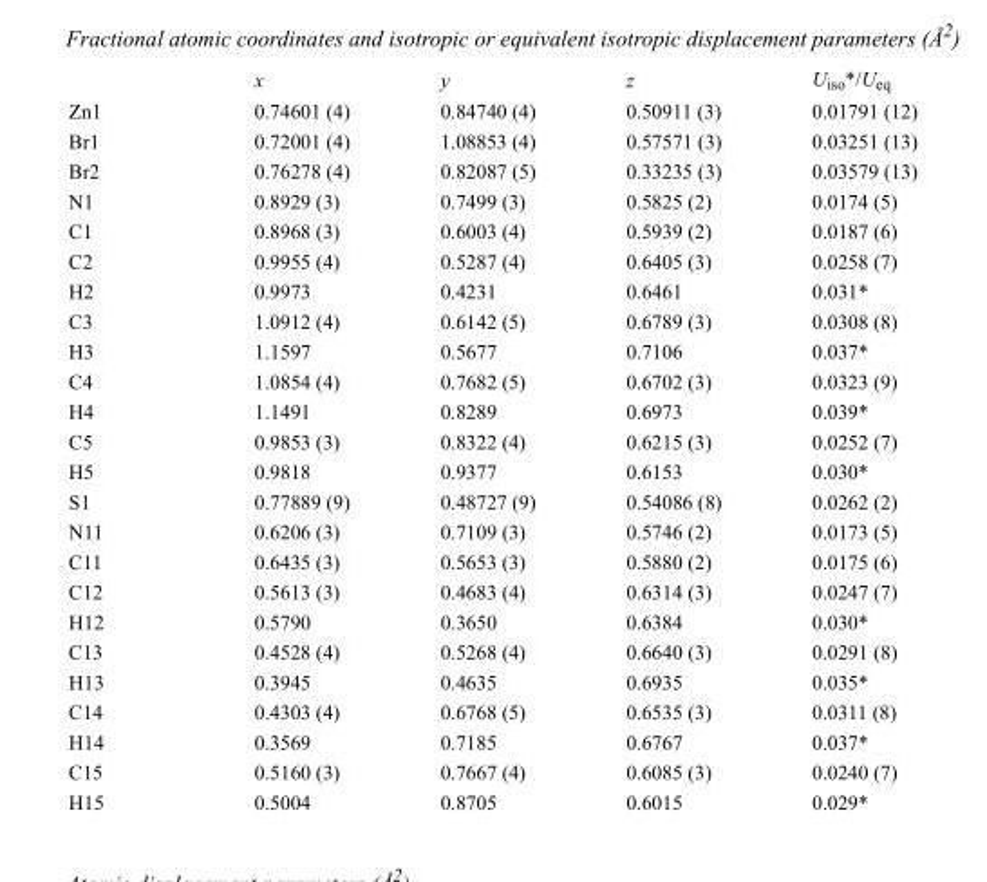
<table><thead><tr><td></td><td>x</td><td>y</td><td>z</td><td>U<sub>iso</sub>*/U<sub>eq</sub></td></tr></thead><tbody><tr><td>Zn1</td><td>0.74601 (4)</td><td>0.84740 (4)</td><td>0.50911 (3)</td><td>0.01791 (12)</td></tr><tr><td>Br1</td><td>0.72001 (4)</td><td>1.08853 (4)</td><td>0.57571 (3)</td><td>0.03251 (13)</td></tr><tr><td>Br2</td><td>0.76278 (4)</td><td>0.82087 (5)</td><td>0.33235 (3)</td><td>0.03579 (13)</td></tr><tr><td>N1</td><td>0.8929 (3)</td><td>0.7499 (3)</td><td>0.5825 (2)</td><td>0.0174 (5)</td></tr><tr><td>C1</td><td>0.8968 (3)</td><td>0.6003 (4)</td><td>0.5939 (2)</td><td>0.0187 (6)</td></tr><tr><td>C2</td><td>0.9955 (4)</td><td>0.5287 (4)</td><td>0.6405 (3)</td><td>0.0258 (7)</td></tr><tr><td>H2</td><td>0.9973</td><td>0.4231</td><td>0.6461</td><td>0.031*</td></tr><tr><td>C3</td><td>1.0912 (4)</td><td>0.6142 (5)</td><td>0.6789 (3)</td><td>0.0308 (8)</td></tr><tr><td>H3</td><td>1.1597</td><td>0.5677</td><td>0.7106</td><td>0.037*</td></tr><tr><td>C4</td><td>1.0854 (4)</td><td>0.7682 (5)</td><td>0.6702 (3)</td><td>0.0323 (9)</td></tr><tr><td>H4</td><td>1.1491</td><td>0.8289</td><td>0.6973</td><td>0.039*</td></tr><tr><td>C5</td><td>0.9853 (3)</td><td>0.8322 (4)</td><td>0.6215 (3)</td><td>0.0252 (7)</td></tr><tr><td>H5</td><td>0.9818</td><td>0.9377</td><td>0.6153</td><td>0.030*</td></tr><tr><td>S1</td><td>0.77889 (9)</td><td>0.48727 (9)</td><td>0.54086 (8)</td><td>0.0262 (2)</td></tr><tr><td>N11</td><td>0.6206 (3)</td><td>0.7109 (3)</td><td>0.5746 (2)</td><td>0.0173 (5)</td></tr><tr><td>C11</td><td>0.6435 (3)</td><td>0.5653 (3)</td><td>0.5880 (2)</td><td>0.0175 (6)</td></tr><tr><td>C12</td><td>0.5613 (3)</td><td>0.4683 (4)</td><td>0.6314 (3)</td><td>0.0247 (7)</td></tr><tr><td>H12</td><td>0.5790</td><td>0.3650</td><td>0.6384</td><td>0.030*</td></tr><tr><td>C13</td><td>0.4528 (4)</td><td>0.5268 (4)</td><td>0.6640 (3)</td><td>0.0291 (8)</td></tr><tr><td>H13</td><td>0.3945</td><td>0.4635</td><td>0.6935</td><td>0.035*</td></tr><tr><td>C14</td><td>0.4303 (4)</td><td>0.6768 (5)</td><td>0.6535 (3)</td><td>0.0311 (8)</td></tr><tr><td>H14</td><td>0.3569</td><td>0.7185</td><td>0.6767</td><td>0.037*</td></tr><tr><td>C15</td><td>0.5160 (3)</td><td>0.7667 (4)</td><td>0.6085 (3)</td><td>0.0240 (7)</td></tr><tr><td>H15</td><td>0.5004</td><td>0.8705</td><td>0.6015</td><td>0.029*</td></tr></tbody></table>